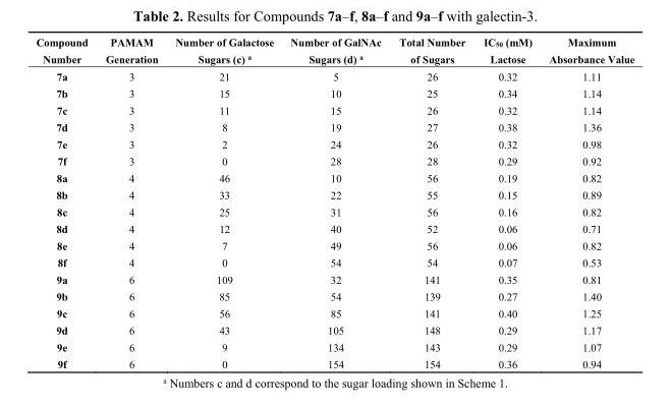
<table><thead><tr><td>Compound Number</td><td>PAMAM Generation</td><td>Number of Galactose Sugars (c) <sup>a</sup></td><td>Number of GalNAc Sugars (d) <sup>a</sup></td><td>Total Number of Sugars</td><td>IC<sub>50</sub> (mM) Lactose</td><td>Maximum Absorbance Value</td></tr></thead><tbody><tr><td>7a</td><td>3</td><td>21</td><td>5</td><td>26</td><td>0.32</td><td>1.11</td></tr><tr><td>7b</td><td>3</td><td>15</td><td>10</td><td>25</td><td>0.34</td><td>1.14</td></tr><tr><td>7c</td><td>3</td><td>11</td><td>15</td><td>26</td><td>0.32</td><td>1.14</td></tr><tr><td>7d</td><td>3</td><td>8</td><td>19</td><td>27</td><td>0.38</td><td>1.36</td></tr><tr><td>7e</td><td>3</td><td>2</td><td>24</td><td>26</td><td>0.32</td><td>0.98</td></tr><tr><td>7f</td><td>3</td><td>0</td><td>28</td><td>28</td><td>0.29</td><td>0.92</td></tr><tr><td>8a</td><td>4</td><td>46</td><td>10</td><td>56</td><td>0.19</td><td>0.82</td></tr><tr><td>8b</td><td>4</td><td>33</td><td>22</td><td>55</td><td>0.15</td><td>0.89</td></tr><tr><td>8c</td><td>4</td><td>25</td><td>31</td><td>56</td><td>0.16</td><td>0.82</td></tr><tr><td>8d</td><td>4</td><td>12</td><td>40</td><td>52</td><td>0.06</td><td>0.71</td></tr><tr><td>8e</td><td>4</td><td>7</td><td>49</td><td>56</td><td>0.06</td><td>0.82</td></tr><tr><td>8f</td><td>4</td><td>0</td><td>54</td><td>54</td><td>0.07</td><td>0.53</td></tr><tr><td>9a</td><td>6</td><td>109</td><td>32</td><td>141</td><td>0.35</td><td>0.81</td></tr><tr><td>9b</td><td>6</td><td>85</td><td>54</td><td>139</td><td>0.27</td><td>1.40</td></tr><tr><td>9c</td><td>6</td><td>56</td><td>85</td><td>141</td><td>0.40</td><td>1.25</td></tr><tr><td>9d</td><td>6</td><td>43</td><td>105</td><td>148</td><td>0.29</td><td>1.17</td></tr><tr><td>9e</td><td>6</td><td>9</td><td>134</td><td>143</td><td>0.29</td><td>1.07</td></tr><tr><td>9f</td><td>6</td><td>0</td><td>154</td><td>154</td><td>0.36</td><td>0.94</td></tr></tbody></table>